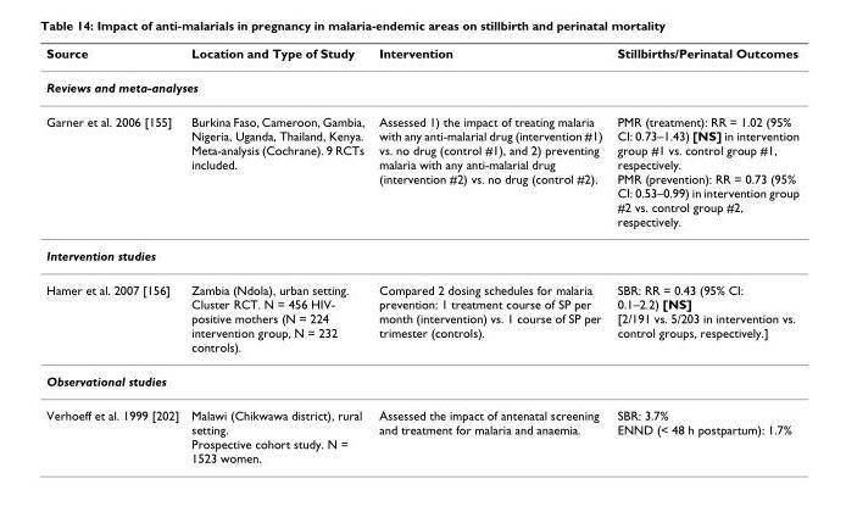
<table><thead><tr><td>Source</td><td>Location and Type of Study</td><td>Intervention</td><td>Stillbirths/Perinatal Outcomes</td></tr></thead><tbody><tr><td colspan="4">Reviews and meta-analyses</td></tr><tr><td>Garner et al. 2006 [155]</td><td>Burkina Faso, Cameroon, Gambia, Nigeria, Uganda, Thailand, Kenya. Meta-analysis (Cochrane). 9 RCTs included.</td><td>Assessed 1) the impact of treating malaria with any anti-malarial drug (intervention #1) vs. no drug (control #1), and 2) preventing malaria with any anti-malarial drug (intervention #2) vs. no drug (control #2).</td><td>PMR (treatment): RR = 1.02 (95% CI: 0.73–1.43) [NS] in intervention group #1 vs. control group #1, respectively. PMR (prevention): RR = 0.73 (95% CI: 0.53–0.99) in intervention group #2 vs. control group #2, respectively.</td></tr><tr><td colspan="4">Intervention studies</td></tr><tr><td>Hamer et al. 2007 [156]</td><td>Zambia (Ndola), urban setting. Cluster RCT. N = 456 HIV- positive mothers (N = 224 intervention group, N = 232 controls).</td><td>Compared 2 dosing schedules for malaria prevention: 1 treatment course of SP per month (intervention) vs. 1 course of SP per trimester (controls).</td><td>SBR: RR = 0.43 (95% CI: 0.1–2.2) [NS] [2/191 vs. 5/203 in intervention vs. control groups, respectively.]</td></tr><tr><td colspan="4">Observational studies</td></tr><tr><td>Verhoeff et al. 1999 [202]</td><td>Malawi (Chikwawa district), rural setting. Prospective cohort study. N = 1523 women.</td><td>Assessed the impact of antenatal screening and treatment for malaria and anaemia.</td><td>SBR: 3.7% ENND (&lt; 48 h postpartum): 1.7%</td></tr></tbody></table>